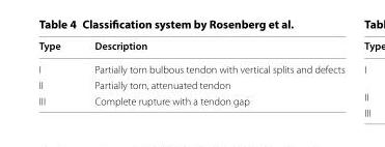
<table><thead><tr><td>Type</td><td>Description</td></tr></thead><tbody><tr><td>I</td><td>Partially torn bulbous tendon with vertical splits and defects</td></tr><tr><td>II</td><td>Partially torn, attenuated tendon</td></tr><tr><td>III</td><td>Complete rupture with a tendon gap</td></tr></tbody></table>